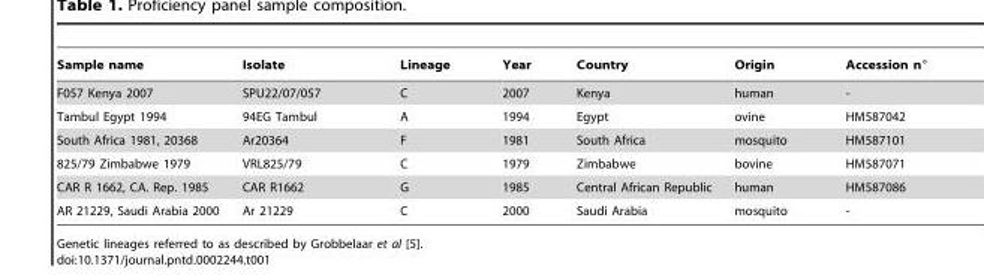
<table><thead><tr><td>Sample name</td><td>Isolate</td><td>Lineage</td><td>Year</td><td>Country</td><td>Origin</td><td>Accession n°</td></tr></thead><tbody><tr><td>F057 Kenya 2007</td><td>SPU22/07/057</td><td>C</td><td>2007</td><td>Kenya</td><td>human</td><td>-</td></tr><tr><td>Tambul Egypt 1994</td><td>94EG Tambul</td><td>A</td><td>1994</td><td>Egypt</td><td>ovine</td><td>HM587042</td></tr><tr><td>South Africa 1981, 20368</td><td>Ar20364</td><td>F</td><td>1981</td><td>South Africa</td><td>mosquito</td><td>HM587101</td></tr><tr><td>825/79 Zimbabwe 1979</td><td>VRL825/79</td><td>C</td><td>1979</td><td>Zimbabwe</td><td>bovine</td><td>HM587071</td></tr><tr><td>CAR R 1662, CA. Rep. 1985</td><td>CAR R1662</td><td>G</td><td>1985</td><td>Central African Republic</td><td>human</td><td>HM587086</td></tr><tr><td>AR 21229, Saudi Arabia 2000</td><td>Ar 21229</td><td>C</td><td>2000</td><td>Saudi Arabia</td><td>mosquito</td><td>-</td></tr></tbody></table>